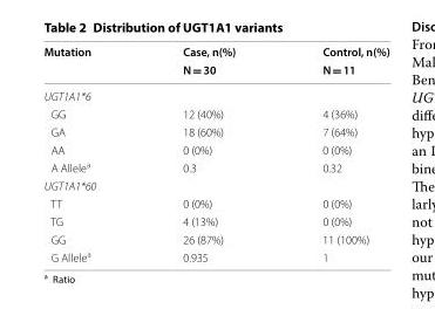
<table><thead><tr><td rowspan="2">Mutation</td><td rowspan="2">Case, n(%) N = 30</td><td rowspan="2">Control, n(%) N = 11</td></tr><tr></tr></thead><tbody><tr><td colspan="3">UGT1A1*6</td></tr><tr><td>GG</td><td>12 (40%)</td><td>4 (36%)</td></tr><tr><td>GA</td><td>18 (60%)</td><td>7 (64%)</td></tr><tr><td>AA</td><td>0 (0%)</td><td>0 (0%)</td></tr><tr><td>A Allele<sup>a</sup></td><td>0.3</td><td>0.32</td></tr><tr><td colspan="3">UGT1A1*60</td></tr><tr><td>TT</td><td>0 (0%)</td><td>0 (0%)</td></tr><tr><td>TG</td><td>4 (13%)</td><td>0 (0%)</td></tr><tr><td>GG</td><td>26 (87%)</td><td>11 (100%)</td></tr><tr><td>G Allele<sup>a</sup></td><td>0.935</td><td>1</td></tr></tbody></table>